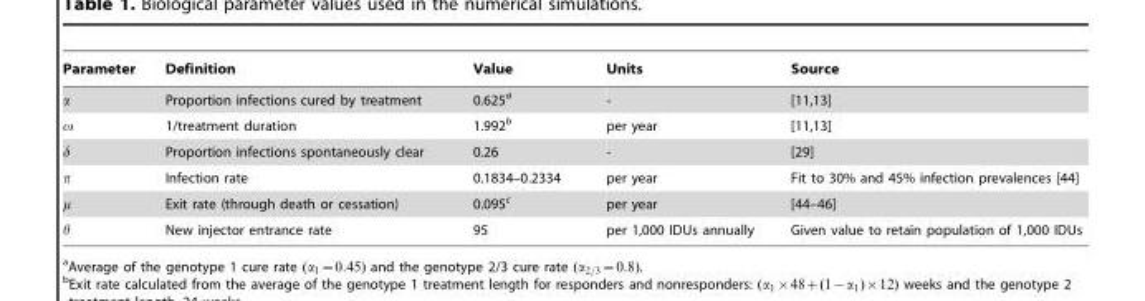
<table><thead><tr><td>Parameter</td><td>Definition</td><td>Value</td><td>Units</td><td>Source</td></tr></thead><tbody><tr><td>a</td><td>Proportion infections cured by treatment</td><td>0.625<sup>a</sup></td><td>-</td><td>[11,13]</td></tr><tr><td>v</td><td>1/treatment duration</td><td>1.992<sup>b</sup></td><td>per year</td><td>[11,13]</td></tr><tr><td>d</td><td>Proportion infections spontaneously clear</td><td>0.26</td><td>-</td><td>[29]</td></tr><tr><td>p</td><td>Infection rate</td><td>0.1834–0.2334</td><td>per year</td><td>Fit to 30% and 45% infection prevalences [44]</td></tr><tr><td>m</td><td>Exit rate (through death or cessation)</td><td>0.095<sup>c</sup></td><td>per year</td><td>[44–46]</td></tr><tr><td>h</td><td>New injector entrance rate</td><td>95</td><td>per 1,000 IDUs annually</td><td>Given value to retain population of 1,000 IDUs</td></tr></tbody></table>